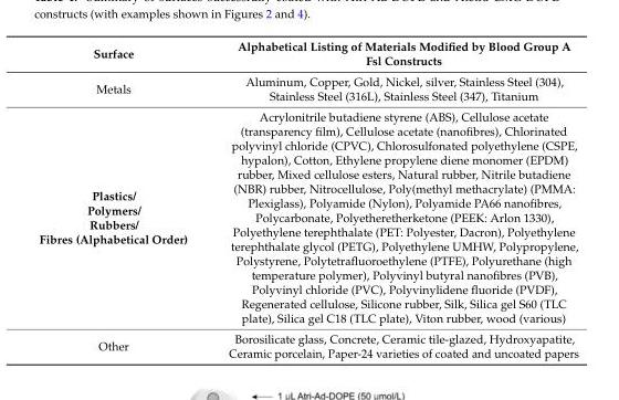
<table><thead><tr><td>Surface</td><td>Alphabetical Listing of Materials Modified by Blood Group A Fsl Constructs</td></tr></thead><tbody><tr><td>Metals</td><td>Aluminum, Copper, Gold, Nickel, silver, Stainless Steel (304), Stainless Steel (316L), Stainless Steel (347), Titanium</td></tr><tr><td>Plastics/ Polymers/ Rubbers/ Fibres (Alphabetical Order)</td><td>Acrylonitrile butadiene styrene (ABS), Cellulose acetate (transparency film), Cellulose acetate (nanofibres), Chlorinated polyvinyl chloride (CPVC), Chlorosulfonated polyethylene (CSPE, hypalon), Cotton, Ethylene propylene diene monomer (EPDM) rubber, Mixed cellulose esters, Natural rubber, Nitrile butadiene (NBR) rubber, Nitrocellulose, Poly(methyl methacrylate) (PMMA: Plexiglass), Polyamide (Nylon), Polyamide PA66 nanofibres, Polycarbonate, Polyetheretherketone (PEEK: Arlon 1330), Polyethylene terephthalate (PET: Polyester, Dacron), Polyethylene terephthalate glycol (PETG), Polyethylene UMHW, Polypropylene, Polystyrene, Polytetrafluoroethylene (PTFE), Polyurethane (high temperature polymer), Polyvinyl butyral nanofibres (PVB), Polyvinyl chloride (PVC), Polyvinylidene fluoride (PVDF), Regenerated cellulose, Silicone rubber, Silk, Silica gel S60 (TLC plate), Silica gel C18 (TLC plate), Viton rubber, wood (various)</td></tr><tr><td>Other</td><td>Borosilicate glass, Concrete, Ceramic tile-glazed, Hydroxyapatite, Ceramic porcelain, Paper-24 varieties of coated and uncoated papers</td></tr></tbody></table>